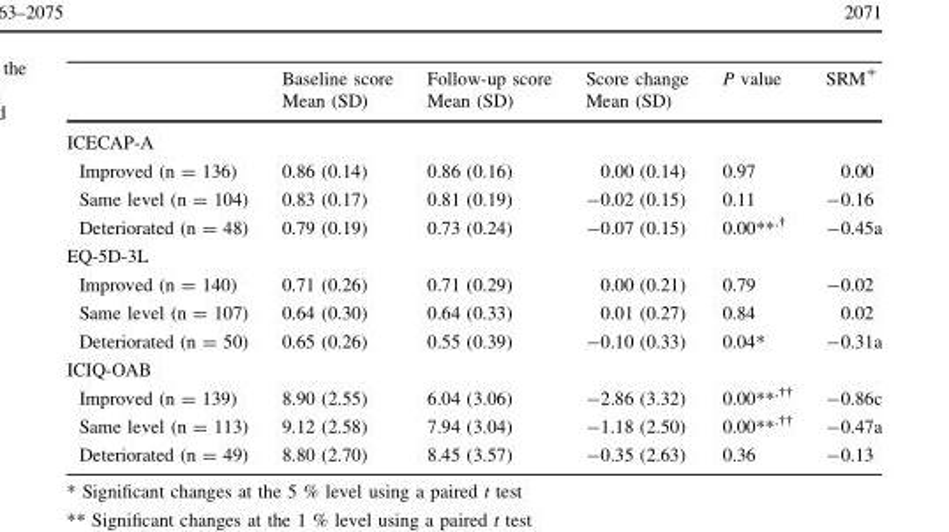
<table><thead><tr><td rowspan="2"></td><td rowspan="2">Baseline score Mean (SD)</td><td rowspan="2">Follow-up score Mean (SD)</td><td rowspan="2">Score change Mean (SD)</td><td rowspan="2">P value</td><td rowspan="2">SRM<sup>ǂ</sup></td></tr><tr></tr></thead><tbody><tr><td colspan="6">ICECAP-A</td></tr><tr><td>Improved (n = 136)</td><td>0.86 (0.14)</td><td>0.86 (0.16)</td><td>0.00 (0.14)</td><td>0.97</td><td>0.00</td></tr><tr><td>Same level (n = 104)</td><td>0.83 (0.17)</td><td>0.81 (0.19)</td><td>-0.02 (0.15)</td><td>0.11</td><td>-0.16</td></tr><tr><td>Deteriorated (n = 48)</td><td>0.79 (0.19)</td><td>0.73 (0.24)</td><td>-0.07 (0.15)</td><td>0.00**<sup>,†</sup></td><td>-0.45a</td></tr><tr><td colspan="6">EQ-5D-3L</td></tr><tr><td>Improved (n = 140)</td><td>0.71 (0.26)</td><td>0.71 (0.29)</td><td>0.00 (0.21)</td><td>0.79</td><td>-0.02</td></tr><tr><td>Same level (n = 107)</td><td>0.64 (0.30)</td><td>0.64 (0.33)</td><td>0.01 (0.27)</td><td>0.84</td><td>0.02</td></tr><tr><td>Deteriorated (n = 50)</td><td>0.65 (0.26)</td><td>0.55 (0.39)</td><td>-0.10 (0.33)</td><td>0.04*</td><td>-0.31a</td></tr><tr><td colspan="6">ICIQ-OAB</td></tr><tr><td>Improved (n = 139)</td><td>8.90 (2.55)</td><td>6.04 (3.06)</td><td>-2.86 (3.32)</td><td>0.00**<sup>,††</sup></td><td>-0.86c</td></tr><tr><td>Same level (n = 113)</td><td>9.12 (2.58)</td><td>7.94 (3.04)</td><td>-1.18 (2.50)</td><td>0.00**<sup>,††</sup></td><td>-0.47a</td></tr><tr><td>Deteriorated (n = 49)</td><td>8.80 (2.70)</td><td>8.45 (3.57)</td><td>-0.35 (2.63)</td><td>0.36</td><td>-0.13</td></tr></tbody></table>